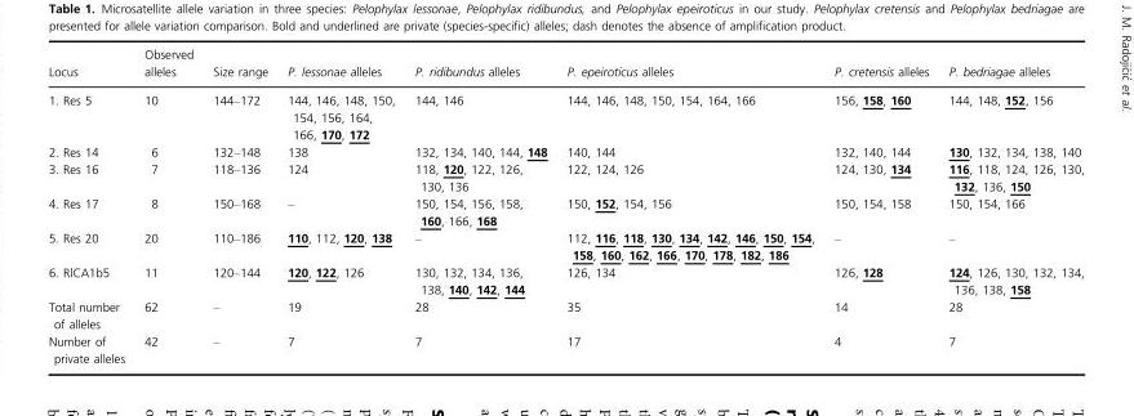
<table><thead><tr><td>Locus</td><td>Observed alleles</td><td>Size range</td><td>P. lessonae alleles</td><td>P. ridibundus alleles</td><td>P. epeiroticus alleles</td><td>P. cretensis alleles</td><td>P. bedriagae alleles</td></tr></thead><tbody><tr><td>1. Res 5</td><td>10</td><td>144–172</td><td>144, 146, 148, 150, 154, 156, 164, 166, 170, 172</td><td>144, 146</td><td>144, 146, 148, 150, 154, 164, 166</td><td>156, 158, 160</td><td>144, 148, 152, 156</td></tr><tr><td>2. Res 14</td><td>6</td><td>132–148</td><td>138</td><td>132, 134, 140, 144, 148</td><td>140, 144</td><td>132, 140, 144</td><td>130, 132, 134, 138, 140</td></tr><tr><td>3. Res 16</td><td>7</td><td>118–136</td><td>124</td><td>118, 120, 122, 126, 130, 136</td><td>122, 124, 126</td><td>124, 130, 134</td><td>116, 118, 124, 126, 130, 132, 136, 150</td></tr><tr><td>4. Res 17</td><td>8</td><td>150–168</td><td>–</td><td>150, 154, 156, 158, 160, 166, 168</td><td>150, 152, 154, 156</td><td>150, 154, 158</td><td>150, 154, 166</td></tr><tr><td>5. Res 20</td><td>20</td><td>110–186</td><td>110, 112, 120, 138</td><td>–</td><td>112, 116, 118, 130, 134, 142, 146, 150, 154, 158, 160, 162, 166, 170, 178, 182, 186</td><td>–</td><td>–</td></tr><tr><td>6. RlCA1b5</td><td>11</td><td>120–144</td><td>120, 122, 126</td><td>130, 132, 134, 136, 138, 140, 142, 144</td><td>126, 134</td><td>126, 128</td><td>124, 126, 130, 132, 134, 136, 138, 158</td></tr><tr><td>Total number of alleles</td><td>62</td><td>–</td><td>19</td><td>28</td><td>35</td><td>14</td><td>28</td></tr><tr><td>Number of private alleles</td><td>42</td><td>–</td><td>7</td><td>7</td><td>17</td><td>4</td><td>7</td></tr></tbody></table>